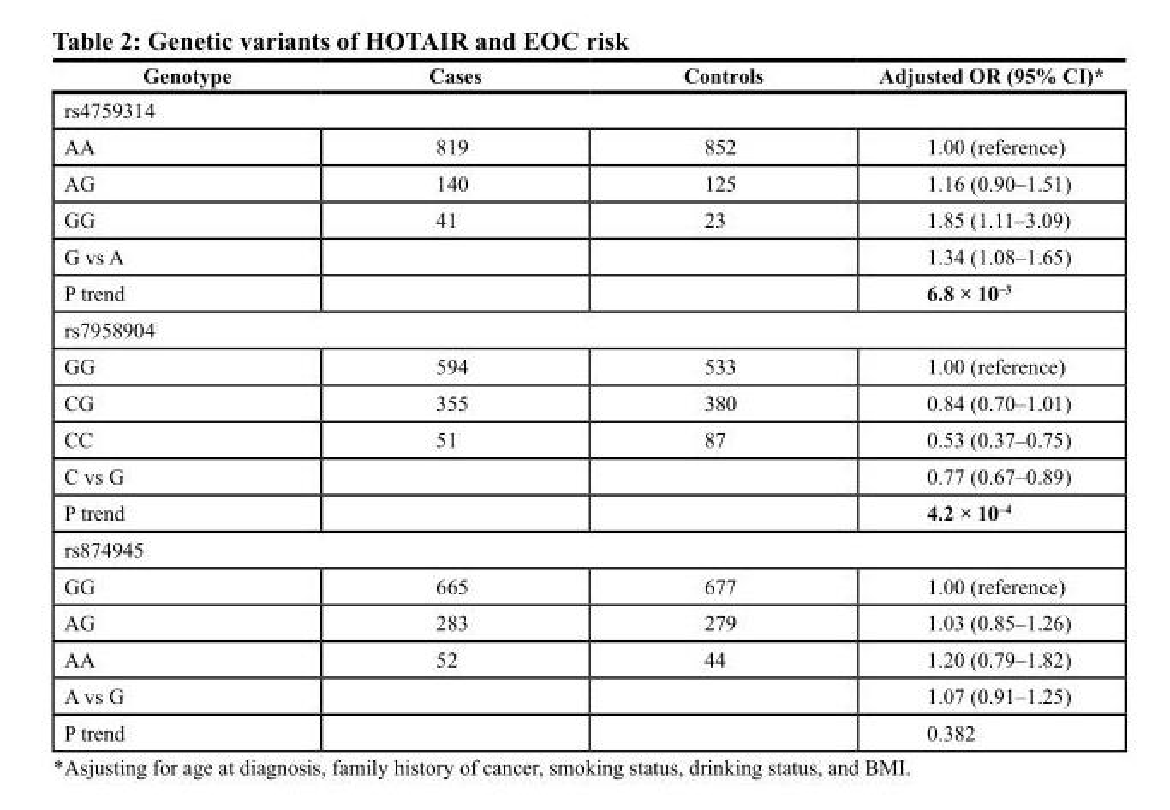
<table><thead><tr><td>Genotype</td><td>Cases</td><td>Controls</td><td>Adjusted OR (95% CI)*</td></tr></thead><tbody><tr><td colspan="4">rs4759314</td></tr><tr><td>AA</td><td>819</td><td>852</td><td>1.00 (reference)</td></tr><tr><td>AG</td><td>140</td><td>125</td><td>1.16 (0.90–1.51)</td></tr><tr><td>GG</td><td>41</td><td>23</td><td>1.85 (1.11–3.09)</td></tr><tr><td>G vs A</td><td></td><td></td><td>1.34 (1.08–1.65)</td></tr><tr><td>P trend</td><td></td><td></td><td>6.8 × 10<sup>–3</sup></td></tr><tr><td colspan="4">rs7958904</td></tr><tr><td>GG</td><td>594</td><td>533</td><td>1.00 (reference)</td></tr><tr><td>CG</td><td>355</td><td>380</td><td>0.84 (0.70–1.01)</td></tr><tr><td>CC</td><td>51</td><td>87</td><td>0.53 (0.37–0.75)</td></tr><tr><td>C vs G</td><td></td><td></td><td>0.77 (0.67–0.89)</td></tr><tr><td>P trend</td><td></td><td></td><td>4.2 × 10<sup>–4</sup></td></tr><tr><td colspan="4">rs874945</td></tr><tr><td>GG</td><td>665</td><td>677</td><td>1.00 (reference)</td></tr><tr><td>AG</td><td>283</td><td>279</td><td>1.03 (0.85–1.26)</td></tr><tr><td>AA</td><td>52</td><td>44</td><td>1.20 (0.79–1.82)</td></tr><tr><td>A vs G</td><td></td><td></td><td>1.07 (0.91–1.25)</td></tr><tr><td>P trend</td><td></td><td></td><td>0.382</td></tr></tbody></table>